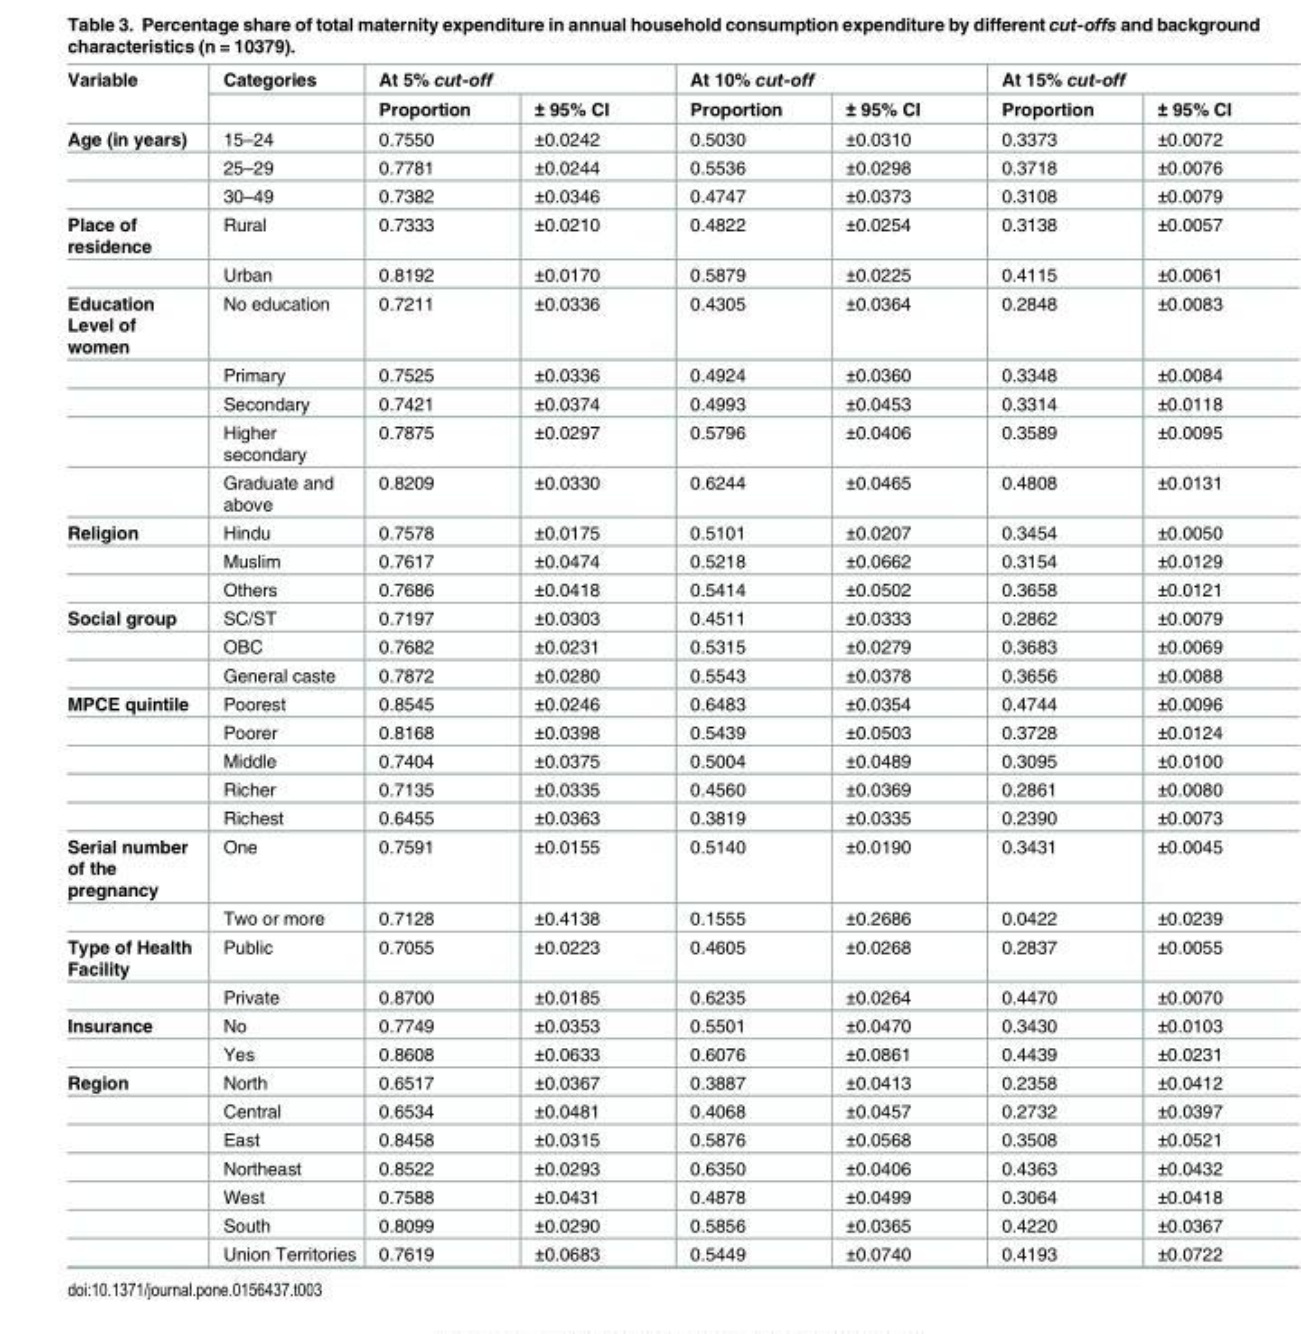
<table><thead><tr><td rowspan="2">Variable</td><td rowspan="2">Categories</td><td colspan="2">At 5% cut-off</td><td colspan="2">At 10% cut-off</td><td colspan="2">At 15% cut-off</td></tr><tr><td>Proportion</td><td>± 95% CI</td><td>Proportion</td><td>± 95% CI</td><td>Proportion</td><td>± 95% CI</td></tr></thead><tbody><tr><td rowspan="3">Age (in years)</td><td>15–24</td><td>0.7550</td><td>±0.0242</td><td>0.5030</td><td>±0.0310</td><td>0.3373</td><td>±0.0072</td></tr><tr><td>25–29</td><td>0.7781</td><td>±0.0244</td><td>0.5536</td><td>±0.0298</td><td>0.3718</td><td>±0.0076</td></tr><tr><td>30–49</td><td>0.7382</td><td>±0.0346</td><td>0.4747</td><td>±0.0373</td><td>0.3108</td><td>±0.0079</td></tr><tr><td rowspan="2">Place of residence</td><td>Rural</td><td>0.7333</td><td>±0.0210</td><td>0.4822</td><td>±0.0254</td><td>0.3138</td><td>±0.0057</td></tr><tr><td>Urban</td><td>0.8192</td><td>±0.0170</td><td>0.5879</td><td>±0.0225</td><td>0.4115</td><td>±0.0061</td></tr><tr><td rowspan="5">Education Level of women</td><td>No education</td><td>0.7211</td><td>±0.0336</td><td>0.4305</td><td>±0.0364</td><td>0.2848</td><td>±0.0083</td></tr><tr><td>Primary</td><td>0.7525</td><td>±0.0336</td><td>0.4924</td><td>±0.0360</td><td>0.3348</td><td>±0.0084</td></tr><tr><td>Secondary</td><td>0.7421</td><td>±0.0374</td><td>0.4993</td><td>±0.0453</td><td>0.3314</td><td>±0.0118</td></tr><tr><td>Higher secondary</td><td>0.7875</td><td>±0.0297</td><td>0.5796</td><td>±0.0406</td><td>0.3589</td><td>±0.0095</td></tr><tr><td>Graduate and above</td><td>0.8209</td><td>±0.0330</td><td>0.6244</td><td>±0.0465</td><td>0.4808</td><td>±0.0131</td></tr><tr><td rowspan="3">Religion</td><td>Hindu</td><td>0.7578</td><td>±0.0175</td><td>0.5101</td><td>±0.0207</td><td>0.3454</td><td>±0.0050</td></tr><tr><td>Muslim</td><td>0.7617</td><td>±0.0474</td><td>0.5218</td><td>±0.0662</td><td>0.3154</td><td>±0.0129</td></tr><tr><td>Others</td><td>0.7686</td><td>±0.0418</td><td>0.5414</td><td>±0.0502</td><td>0.3658</td><td>±0.0121</td></tr><tr><td rowspan="3">Social group</td><td>SC/ST</td><td>0.7197</td><td>±0.0303</td><td>0.4511</td><td>±0.0333</td><td>0.2862</td><td>±0.0079</td></tr><tr><td>OBC</td><td>0.7682</td><td>±0.0231</td><td>0.5315</td><td>±0.0279</td><td>0.3683</td><td>±0.0069</td></tr><tr><td>General caste</td><td>0.7872</td><td>±0.0280</td><td>0.5543</td><td>±0.0378</td><td>0.3656</td><td>±0.0088</td></tr><tr><td rowspan="5">MPCE quintile</td><td>Poorest</td><td>0.8545</td><td>±0.0246</td><td>0.6483</td><td>±0.0354</td><td>0.4744</td><td>±0.0096</td></tr><tr><td>Poorer</td><td>0.8168</td><td>±0.0398</td><td>0.5439</td><td>±0.0503</td><td>0.3728</td><td>±0.0124</td></tr><tr><td>Middle</td><td>0.7404</td><td>±0.0375</td><td>0.5004</td><td>±0.0489</td><td>0.3095</td><td>±0.0100</td></tr><tr><td>Richer</td><td>0.7135</td><td>±0.0335</td><td>0.4560</td><td>±0.0369</td><td>0.2861</td><td>±0.0080</td></tr><tr><td>Richest</td><td>0.6455</td><td>±0.0363</td><td>0.3819</td><td>±0.0335</td><td>0.2390</td><td>±0.0073</td></tr><tr><td rowspan="2">Serial number of the pregnancy</td><td>One</td><td>0.7591</td><td>±0.0155</td><td>0.5140</td><td>±0.0190</td><td>0.3431</td><td>±0.0045</td></tr><tr><td>Two or more</td><td>0.7128</td><td>±0.4138</td><td>0.1555</td><td>±0.2686</td><td>0.0422</td><td>±0.0239</td></tr><tr><td rowspan="2">Type of Health Facility</td><td>Public</td><td>0.7055</td><td>±0.0223</td><td>0.4605</td><td>±0.0268</td><td>0.2837</td><td>±0.0055</td></tr><tr><td>Private</td><td>0.8700</td><td>±0.0185</td><td>0.6235</td><td>±0.0264</td><td>0.4470</td><td>±0.0070</td></tr><tr><td rowspan="2">Insurance</td><td>No</td><td>0.7749</td><td>±0.0353</td><td>0.5501</td><td>±0.0470</td><td>0.3430</td><td>±0.0103</td></tr><tr><td>Yes</td><td>0.8608</td><td>±0.0633</td><td>0.6076</td><td>±0.0861</td><td>0.4439</td><td>±0.0231</td></tr><tr><td rowspan="7">Region</td><td>North</td><td>0.6517</td><td>±0.0367</td><td>0.3887</td><td>±0.0413</td><td>0.2358</td><td>±0.0412</td></tr><tr><td>Central</td><td>0.6534</td><td>±0.0481</td><td>0.4068</td><td>±0.0457</td><td>0.2732</td><td>±0.0397</td></tr><tr><td>East</td><td>0.8458</td><td>±0.0315</td><td>0.5876</td><td>±0.0568</td><td>0.3508</td><td>±0.0521</td></tr><tr><td>Northeast</td><td>0.8522</td><td>±0.0293</td><td>0.6350</td><td>±0.0406</td><td>0.4363</td><td>±0.0432</td></tr><tr><td>West</td><td>0.7588</td><td>±0.0431</td><td>0.4878</td><td>±0.0499</td><td>0.3064</td><td>±0.0418</td></tr><tr><td>South</td><td>0.8099</td><td>±0.0290</td><td>0.5856</td><td>±0.0365</td><td>0.4220</td><td>±0.0367</td></tr><tr><td>Union Territories</td><td>0.7619</td><td>±0.0683</td><td>0.5449</td><td>±0.0740</td><td>0.4193</td><td>±0.0722</td></tr></tbody></table>